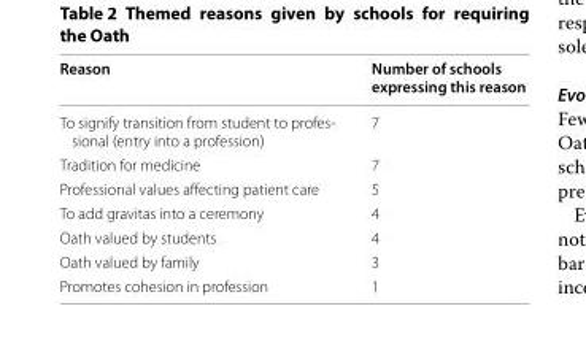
<table><thead><tr><td>Reason</td><td>Number of schools expressing this reason</td></tr></thead><tbody><tr><td>To signify transition from student to profes- sional (entry into a profession)</td><td>7</td></tr><tr><td>Tradition for medicine</td><td>7</td></tr><tr><td>Professional values affecting patient care</td><td>5</td></tr><tr><td>To add gravitas into a ceremony</td><td>4</td></tr><tr><td>Oath valued by students</td><td>4</td></tr><tr><td>Oath valued by family</td><td>3</td></tr><tr><td>Promotes cohesion in profession</td><td>1</td></tr></tbody></table>